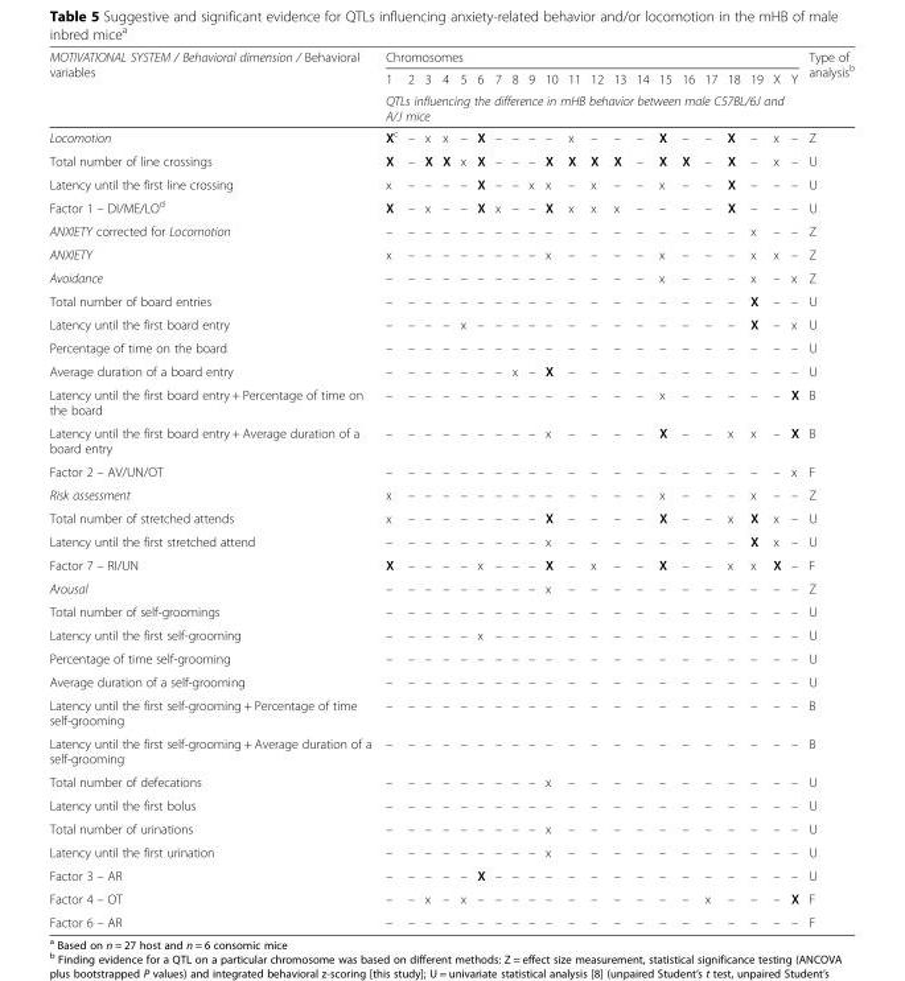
<table><thead><tr><td rowspan="3">MOTIVATIONAL SYSTEM / Behavioral dimension / Behavioral variables</td><td colspan="21">Chromosomes</td><td rowspan="3">Type of analysis<sup>b</sup></td></tr><tr><td>1</td><td>2</td><td>3</td><td>4</td><td>5</td><td>6</td><td>7</td><td>8</td><td>9</td><td>10</td><td>11</td><td>12</td><td>13</td><td>14</td><td>15</td><td>16</td><td>17</td><td>18</td><td>19</td><td>X</td><td>Y</td></tr><tr><td colspan="21">QTLs influencing the difference in mHB behavior between male C57BL/6J and A/J mice</td></tr></thead><tbody><tr><td>Locomotion</td><td>X<sup>c</sup></td><td>–</td><td>x</td><td>x</td><td>–</td><td>X</td><td>–</td><td>–</td><td>–</td><td>–</td><td>x</td><td>–</td><td>–</td><td>–</td><td>X</td><td>–</td><td>–</td><td>X</td><td>–</td><td>x</td><td>–</td><td>Z</td></tr><tr><td>Total number of line crossings</td><td>X</td><td>–</td><td>X</td><td>X</td><td>x</td><td>X</td><td>–</td><td>–</td><td>–</td><td>X</td><td>X</td><td>X</td><td>X</td><td>–</td><td>X</td><td>X</td><td>–</td><td>X</td><td>–</td><td>x</td><td>–</td><td>U</td></tr><tr><td>Latency until the first line crossing</td><td>x</td><td>–</td><td>–</td><td>–</td><td>–</td><td>X</td><td>–</td><td>–</td><td>x</td><td>x</td><td>–</td><td>x</td><td>–</td><td>–</td><td>x</td><td>–</td><td>–</td><td>X</td><td>–</td><td>–</td><td>–</td><td>U</td></tr><tr><td>Factor 1 – DI/ME/LO<sup>d</sup></td><td>X</td><td>–</td><td>x</td><td>–</td><td>–</td><td>X</td><td>x</td><td>–</td><td>–</td><td>X</td><td>x</td><td>x</td><td>x</td><td>–</td><td>–</td><td>–</td><td>–</td><td>X</td><td>–</td><td>–</td><td>–</td><td>U</td></tr><tr><td>ANXIETY corrected for Locomotion</td><td>–</td><td>–</td><td>–</td><td>–</td><td>–</td><td>–</td><td>–</td><td>–</td><td>–</td><td>–</td><td>–</td><td>–</td><td>–</td><td>–</td><td>–</td><td>–</td><td>–</td><td>–</td><td>x</td><td>–</td><td>–</td><td>Z</td></tr><tr><td>ANXIETY</td><td>x</td><td>–</td><td>–</td><td>–</td><td>–</td><td>–</td><td>–</td><td>–</td><td>–</td><td>x</td><td>–</td><td>–</td><td>–</td><td>–</td><td>x</td><td>–</td><td>–</td><td>–</td><td>x</td><td>x</td><td>–</td><td>Z</td></tr><tr><td>Avoidance</td><td>–</td><td>–</td><td>–</td><td>–</td><td>–</td><td>–</td><td>–</td><td>–</td><td>–</td><td>–</td><td>–</td><td>–</td><td>–</td><td>–</td><td>x</td><td>–</td><td>–</td><td>–</td><td>x</td><td>–</td><td>x</td><td>Z</td></tr><tr><td>Total number of board entries</td><td>–</td><td>–</td><td>–</td><td>–</td><td>–</td><td>–</td><td>–</td><td>–</td><td>–</td><td>–</td><td>–</td><td>–</td><td>–</td><td>–</td><td>–</td><td>–</td><td>–</td><td>–</td><td>X</td><td>–</td><td>–</td><td>U</td></tr><tr><td>Latency until the first board entry</td><td>–</td><td>–</td><td>–</td><td>–</td><td>x</td><td>–</td><td>–</td><td>–</td><td>–</td><td>–</td><td>–</td><td>–</td><td>–</td><td>–</td><td>–</td><td>–</td><td>–</td><td>–</td><td>X</td><td>–</td><td>x</td><td>U</td></tr><tr><td>Percentage of time on the board</td><td>–</td><td>–</td><td>–</td><td>–</td><td>–</td><td>–</td><td>–</td><td>–</td><td>–</td><td>–</td><td>–</td><td>–</td><td>–</td><td>–</td><td>–</td><td>–</td><td>–</td><td>–</td><td>–</td><td>–</td><td>–</td><td>U</td></tr><tr><td>Average duration of a board entry</td><td>–</td><td>–</td><td>–</td><td>–</td><td>–</td><td>–</td><td>–</td><td>x</td><td>–</td><td>X</td><td>–</td><td>–</td><td>–</td><td>–</td><td>–</td><td>–</td><td>–</td><td>–</td><td>–</td><td>–</td><td>–</td><td>U</td></tr><tr><td>Latency until the first board entry + Percentage of time on the board</td><td>–</td><td>–</td><td>–</td><td>–</td><td>–</td><td>–</td><td>–</td><td>–</td><td>–</td><td>–</td><td>–</td><td>–</td><td>–</td><td>–</td><td>x</td><td>–</td><td>–</td><td>–</td><td>–</td><td>–</td><td>X</td><td>B</td></tr><tr><td>Latency until the first board entry + Average duration of a board entry</td><td>–</td><td>–</td><td>–</td><td>–</td><td>–</td><td>–</td><td>–</td><td>–</td><td>–</td><td>x</td><td>–</td><td>–</td><td>–</td><td>–</td><td>X</td><td>–</td><td>–</td><td>x</td><td>x</td><td>–</td><td>X</td><td>B</td></tr><tr><td>Factor 2 – AV/UN/OT</td><td>–</td><td>–</td><td>–</td><td>–</td><td>–</td><td>–</td><td>–</td><td>–</td><td>–</td><td>–</td><td>–</td><td>–</td><td>–</td><td>–</td><td>–</td><td>–</td><td>–</td><td>–</td><td>–</td><td>–</td><td>x</td><td>F</td></tr><tr><td>Risk assessment</td><td>x</td><td>–</td><td>–</td><td>–</td><td>–</td><td>–</td><td>–</td><td>–</td><td>–</td><td>–</td><td>–</td><td>–</td><td>–</td><td>–</td><td>x</td><td>–</td><td>–</td><td>–</td><td>x</td><td>–</td><td>–</td><td>Z</td></tr><tr><td>Total number of stretched attends</td><td>x</td><td>–</td><td>–</td><td>–</td><td>–</td><td>–</td><td>–</td><td>–</td><td>–</td><td>X</td><td>–</td><td>–</td><td>–</td><td>–</td><td>X</td><td>–</td><td>–</td><td>x</td><td>X</td><td>x</td><td>–</td><td>U</td></tr><tr><td>Latency until the first stretched attend</td><td>–</td><td>–</td><td>–</td><td>–</td><td>–</td><td>–</td><td>–</td><td>–</td><td>–</td><td>x</td><td>–</td><td>–</td><td>–</td><td>–</td><td>–</td><td>–</td><td>–</td><td>–</td><td>X</td><td>x</td><td>–</td><td>U</td></tr><tr><td>Factor 7 – RI/UN</td><td>X</td><td>–</td><td>–</td><td>–</td><td>–</td><td>x</td><td>–</td><td>–</td><td>–</td><td>X</td><td>–</td><td>x</td><td>–</td><td>–</td><td>X</td><td>–</td><td>–</td><td>x</td><td>x</td><td>X</td><td>–</td><td>F</td></tr><tr><td>Arousal</td><td>–</td><td>–</td><td>–</td><td>–</td><td>–</td><td>–</td><td>–</td><td>–</td><td>–</td><td>x</td><td>–</td><td>–</td><td>–</td><td>–</td><td>–</td><td>–</td><td>–</td><td>–</td><td>–</td><td>–</td><td>–</td><td>Z</td></tr><tr><td>Total number of self-groomings</td><td>–</td><td>–</td><td>–</td><td>–</td><td>–</td><td>–</td><td>–</td><td>–</td><td>–</td><td>–</td><td>–</td><td>–</td><td>–</td><td>–</td><td>–</td><td>–</td><td>–</td><td>–</td><td>–</td><td>–</td><td>–</td><td>U</td></tr><tr><td>Latency until the first self-grooming</td><td>–</td><td>–</td><td>–</td><td>–</td><td>–</td><td>x</td><td>–</td><td>–</td><td>–</td><td>–</td><td>–</td><td>–</td><td>–</td><td>–</td><td>–</td><td>–</td><td>–</td><td>–</td><td>–</td><td>–</td><td>–</td><td>U</td></tr><tr><td>Percentage of time self-grooming</td><td>–</td><td>–</td><td>–</td><td>–</td><td>–</td><td>–</td><td>–</td><td>–</td><td>–</td><td>–</td><td>–</td><td>–</td><td>–</td><td>–</td><td>–</td><td>–</td><td>–</td><td>–</td><td>–</td><td>–</td><td>–</td><td>U</td></tr><tr><td>Average duration of a self-grooming</td><td>–</td><td>–</td><td>–</td><td>–</td><td>–</td><td>–</td><td>–</td><td>–</td><td>–</td><td>–</td><td>–</td><td>–</td><td>–</td><td>–</td><td>–</td><td>–</td><td>–</td><td>–</td><td>–</td><td>–</td><td>–</td><td>U</td></tr><tr><td>Latency until the first self-grooming + Percentage of time self-grooming</td><td>–</td><td>–</td><td>–</td><td>–</td><td>–</td><td>–</td><td>–</td><td>–</td><td>–</td><td>–</td><td>–</td><td>–</td><td>–</td><td>–</td><td>–</td><td>–</td><td>–</td><td>–</td><td>–</td><td>–</td><td>–</td><td>B</td></tr><tr><td>Latency until the first self-grooming + Average duration of a self-grooming</td><td>–</td><td>–</td><td>–</td><td>–</td><td>–</td><td>–</td><td>–</td><td>–</td><td>–</td><td>–</td><td>–</td><td>–</td><td>–</td><td>–</td><td>–</td><td>–</td><td>–</td><td>–</td><td>–</td><td>–</td><td>–</td><td>B</td></tr><tr><td>Total number of defecations</td><td>–</td><td>–</td><td>–</td><td>–</td><td>–</td><td>–</td><td>–</td><td>–</td><td>–</td><td>x</td><td>–</td><td>–</td><td>–</td><td>–</td><td>–</td><td>–</td><td>–</td><td>–</td><td>–</td><td>–</td><td>–</td><td>U</td></tr><tr><td>Latency until the first bolus</td><td>–</td><td>–</td><td>–</td><td>–</td><td>–</td><td>–</td><td>–</td><td>–</td><td>–</td><td>–</td><td>–</td><td>–</td><td>–</td><td>–</td><td>–</td><td>–</td><td>–</td><td>–</td><td>–</td><td>–</td><td>–</td><td>U</td></tr><tr><td>Total number of urinations</td><td>–</td><td>–</td><td>–</td><td>–</td><td>–</td><td>–</td><td>–</td><td>–</td><td>–</td><td>x</td><td>–</td><td>–</td><td>–</td><td>–</td><td>–</td><td>–</td><td>–</td><td>–</td><td>–</td><td>–</td><td>–</td><td>U</td></tr><tr><td>Latency until the first urination</td><td>–</td><td>–</td><td>–</td><td>–</td><td>–</td><td>–</td><td>–</td><td>–</td><td>–</td><td>x</td><td>–</td><td>–</td><td>–</td><td>–</td><td>–</td><td>–</td><td>–</td><td>–</td><td>–</td><td>–</td><td>–</td><td>U</td></tr><tr><td>Factor 3 – AR</td><td>–</td><td>–</td><td>–</td><td>–</td><td>–</td><td>X</td><td>–</td><td>–</td><td>–</td><td>–</td><td>–</td><td>–</td><td>–</td><td>–</td><td>–</td><td>–</td><td>–</td><td>–</td><td>–</td><td>–</td><td>–</td><td>U</td></tr><tr><td>Factor 4 – OT</td><td>–</td><td>–</td><td>x</td><td>–</td><td>x</td><td>–</td><td>–</td><td>–</td><td>–</td><td>–</td><td>–</td><td>–</td><td>–</td><td>–</td><td>–</td><td>–</td><td>x</td><td>–</td><td>–</td><td>–</td><td>X</td><td>F</td></tr><tr><td>Factor 6 – AR</td><td>–</td><td>–</td><td>–</td><td>–</td><td>–</td><td>–</td><td>–</td><td>–</td><td>–</td><td>–</td><td>–</td><td>–</td><td>–</td><td>–</td><td>–</td><td>–</td><td>–</td><td>–</td><td>–</td><td>–</td><td>–</td><td>F</td></tr></tbody></table>